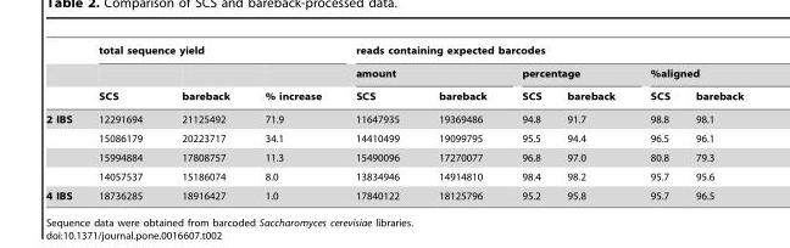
<table><thead><tr><td rowspan="3"></td><td colspan="3">total sequence yield</td><td colspan="6">reads containing expected barcodes</td></tr><tr><td rowspan="2">SCS</td><td rowspan="2">bareback</td><td rowspan="2">% increase</td><td colspan="2">amount</td><td colspan="2">percentage</td><td colspan="2">%aligned</td></tr><tr><td>SCS</td><td>bareback</td><td>SCS</td><td>bareback</td><td>SCS</td><td>bareback</td></tr></thead><tbody><tr><td rowspan="4">2 IBS</td><td>12291694</td><td>21125492</td><td>71.9</td><td>11647935</td><td>19369486</td><td>94.8</td><td>91.7</td><td>98.8</td><td>98.1</td></tr><tr><td>15086179</td><td>20223717</td><td>34.1</td><td>14410499</td><td>19099795</td><td>95.5</td><td>94.4</td><td>96.5</td><td>96.1</td></tr><tr><td>15994884</td><td>17808757</td><td>11.3</td><td>15490096</td><td>17270077</td><td>96.8</td><td>97.0</td><td>80.8</td><td>79.3</td></tr><tr><td>14057537</td><td>15186074</td><td>8.0</td><td>13834946</td><td>14914810</td><td>98.4</td><td>98.2</td><td>95.7</td><td>95.6</td></tr><tr><td>4 IBS</td><td>18736285</td><td>18916427</td><td>1.0</td><td>17840122</td><td>18125796</td><td>95.2</td><td>95.8</td><td>95.7</td><td>96.5</td></tr></tbody></table>